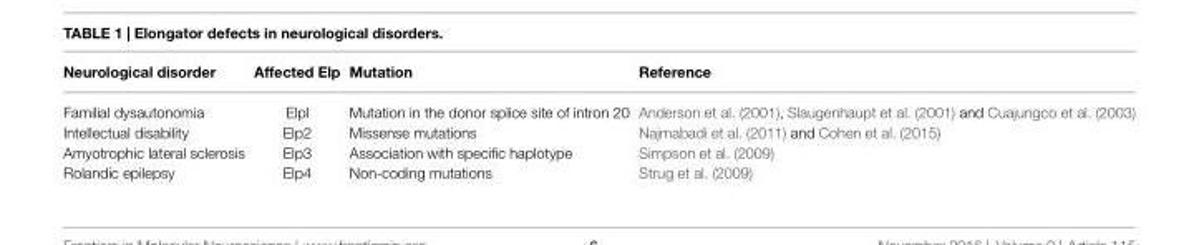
<table><thead><tr><td>Neurological disorder</td><td>Affected Elp</td><td>Mutation</td><td>Reference</td></tr></thead><tbody><tr><td>Familial dysautonomia</td><td>Elpl</td><td>Mutation in the donor splice site of intron 20</td><td>Anderson et al. (2001), Slaugenhaupt et al. (2001) and Cuajungco et al. (2003)</td></tr><tr><td>Intellectual disability</td><td>Elp2</td><td>Missense mutations</td><td>Najmabadi et al. (2011) and Cohen et al. (2015)</td></tr><tr><td>Amyotrophic lateral sclerosis</td><td>Elp3</td><td>Association with specific haplotype</td><td>Simpson et al. (2009)</td></tr><tr><td>Rolandic epilepsy</td><td>Elp4</td><td>Non-coding mutations</td><td>Strug et al. (2009)</td></tr></tbody></table>